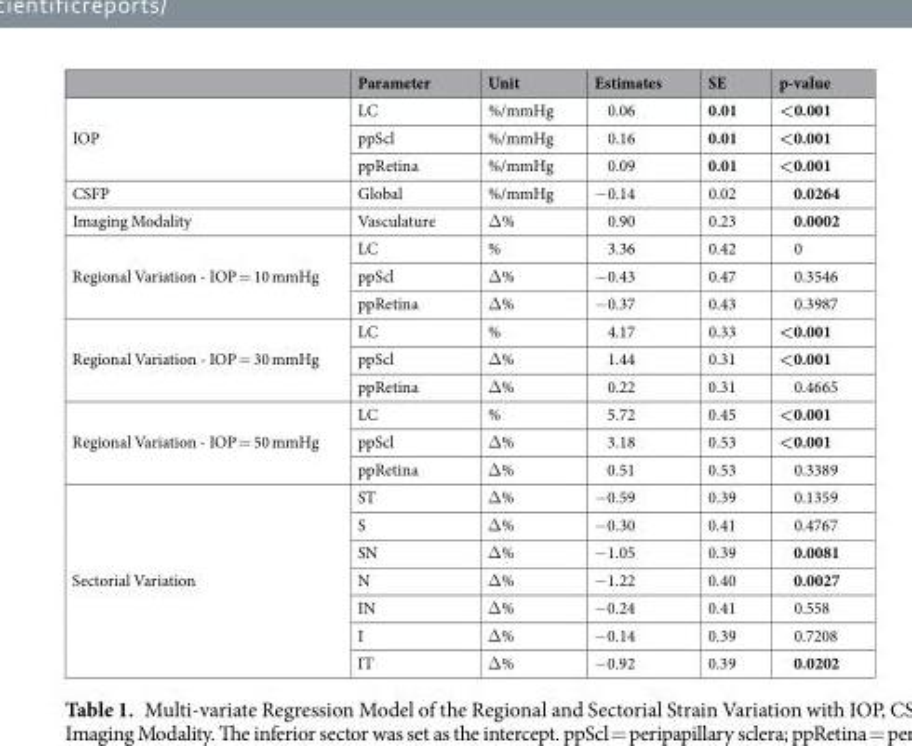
<table><thead><tr><td></td><td>Parameter</td><td>Unit</td><td>Estimates</td><td>SE</td><td>p-value</td></tr></thead><tbody><tr><td rowspan="3">IOP</td><td>LC</td><td>%/mmHg</td><td>0.06</td><td>0.01</td><td>&lt;0.001</td></tr><tr><td>ppScl</td><td>%/mmHg</td><td>0.16</td><td>0.01</td><td>&lt;0.001</td></tr><tr><td>ppRetina</td><td>%/mmHg</td><td>0.09</td><td>0.01</td><td>&lt;0.001</td></tr><tr><td>CSFP</td><td>Global</td><td>%/mmHg</td><td>−0.14</td><td>0.02</td><td>0.0264</td></tr><tr><td>Imaging Modality</td><td>Vasculature</td><td>Δ%</td><td>0.90</td><td>0.23</td><td>0.0002</td></tr><tr><td rowspan="3">Regional Variation - IOP = 10 mmHg</td><td>LC</td><td>%</td><td>3.36</td><td>0.42</td><td>0</td></tr><tr><td>ppScl</td><td>Δ%</td><td>−0.43</td><td>0.47</td><td>0.3546</td></tr><tr><td>ppRetina</td><td>Δ%</td><td>−0.37</td><td>0.43</td><td>0.3987</td></tr><tr><td rowspan="3">Regional Variation - IOP = 30 mmHg</td><td>LC</td><td>%</td><td>4.17</td><td>0.33</td><td>&lt;0.001</td></tr><tr><td>ppScl</td><td>Δ%</td><td>1.44</td><td>0.31</td><td>&lt;0.001</td></tr><tr><td>ppRetina</td><td>Δ%</td><td>0.22</td><td>0.31</td><td>0.4665</td></tr><tr><td rowspan="3">Regional Variation - IOP = 50 mmHg</td><td>LC</td><td>%</td><td>5.72</td><td>0.45</td><td>&lt;0.001</td></tr><tr><td>ppScl</td><td>Δ%</td><td>3.18</td><td>0.53</td><td>&lt;0.001</td></tr><tr><td>ppRetina</td><td>Δ%</td><td>0.51</td><td>0.53</td><td>0.3389</td></tr><tr><td rowspan="7">Sectorial Variation</td><td>ST</td><td>Δ%</td><td>−0.59</td><td>0.39</td><td>0.1359</td></tr><tr><td>S</td><td>Δ%</td><td>−0.30</td><td>0.41</td><td>0.4767</td></tr><tr><td>SN</td><td>Δ%</td><td>−1.05</td><td>0.39</td><td>0.0081</td></tr><tr><td>N</td><td>Δ%</td><td>−1.22</td><td>0.40</td><td>0.0027</td></tr><tr><td>IN</td><td>Δ%</td><td>−0.24</td><td>0.41</td><td>0.558</td></tr><tr><td>I</td><td>Δ%</td><td>−0.14</td><td>0.39</td><td>0.7208</td></tr><tr><td>IT</td><td>Δ%</td><td>−0.92</td><td>0.39</td><td>0.0202</td></tr></tbody></table>